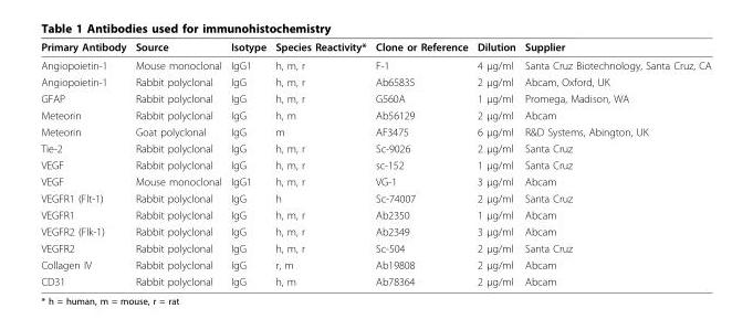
<table><thead><tr><td>Primary Antibody</td><td>Source</td><td>Isotype</td><td>Species Reactivity*</td><td>Clone or Reference</td><td>Dilution</td><td>Supplier</td></tr></thead><tbody><tr><td>Angiopoietin-1</td><td>Mouse monoclonal</td><td>IgG1</td><td>h, m, r</td><td>F-1</td><td>4 μg/ml</td><td>Santa Cruz Biotechnology, Santa Cruz, CA</td></tr><tr><td>Angiopoietin-1</td><td>Rabbit polyclonal</td><td>IgG</td><td>h, m, r</td><td>Ab65835</td><td>2 μg/ml</td><td>Abcam, Oxford, UK</td></tr><tr><td>GFAP</td><td>Rabbit polyclonal</td><td>IgG</td><td>h, m, r</td><td>G560A</td><td>1 μg/ml</td><td>Promega, Madison, WA</td></tr><tr><td>Meteorin</td><td>Rabbit polyclonal</td><td>IgG</td><td>h, m</td><td>Ab56129</td><td>2 μg/ml</td><td>Abcam</td></tr><tr><td>Meteorin</td><td>Goat polyclonal</td><td>IgG</td><td>m</td><td>AF3475</td><td>6 μg/ml</td><td>R&amp;D Systems, Abington, UK</td></tr><tr><td>Tie-2</td><td>Rabbit polyclonal</td><td>IgG</td><td>h, m, r</td><td>Sc-9026</td><td>2 μg/ml</td><td>Santa Cruz</td></tr><tr><td>VEGF</td><td>Rabbit polyclonal</td><td>IgG</td><td>h, m, r</td><td>sc-152</td><td>1 μg/ml</td><td>Santa Cruz</td></tr><tr><td>VEGF</td><td>Mouse monoclonal</td><td>IgG1</td><td>h, m, r</td><td>VG-1</td><td>3 μg/ml</td><td>Abcam</td></tr><tr><td>VEGFR1 (Flt-1)</td><td>Rabbit polyclonal</td><td>IgG</td><td>h</td><td>Sc-74007</td><td>2 μg/ml</td><td>Santa Cruz</td></tr><tr><td>VEGFR1</td><td>Rabbit polyclonal</td><td>IgG</td><td>h, m, r</td><td>Ab2350</td><td>1 μg/ml</td><td>Abcam</td></tr><tr><td>VEGFR2 (Flk-1)</td><td>Rabbit polyclonal</td><td>IgG</td><td>h, m, r</td><td>Ab2349</td><td>3 μg/ml</td><td>Abcam</td></tr><tr><td>VEGFR2</td><td>Rabbit polyclonal</td><td>IgG</td><td>h, m, r</td><td>Sc-504</td><td>2 μg/ml</td><td>Santa Cruz</td></tr><tr><td>Collagen IV</td><td>Rabbit polyclonal</td><td>IgG</td><td>r, m</td><td>Ab19808</td><td>2 μg/ml</td><td>Abcam</td></tr><tr><td>CD31</td><td>Rabbit polyclonal</td><td>IgG</td><td>h, m</td><td>Ab78364</td><td>2 μg/ml</td><td>Abcam</td></tr></tbody></table>